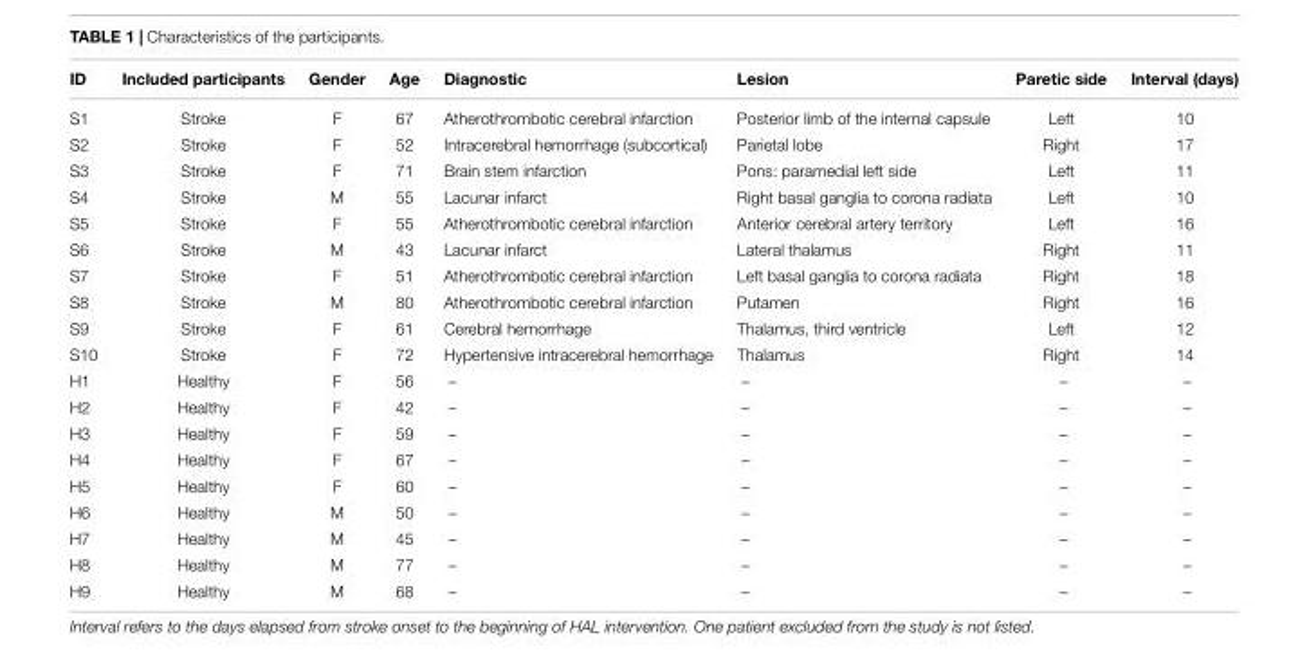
<table><thead><tr><td>ID</td><td>Included participants</td><td>Gender</td><td>Age</td><td>Diagnostic</td><td>Lesion</td><td>Paretic side</td><td>Interval (days)</td></tr></thead><tbody><tr><td>S1</td><td>Stroke</td><td>F</td><td>67</td><td>Atherothrombotic cerebral infarction</td><td>Posterior limb of the internal capsule</td><td>Left</td><td>10</td></tr><tr><td>S2</td><td>Stroke</td><td>F</td><td>52</td><td>Intracerebral hemorrhage (subcortical)</td><td>Parietal lobe</td><td>Right</td><td>17</td></tr><tr><td>S3</td><td>Stroke</td><td>F</td><td>71</td><td>Brain stem infarction</td><td>Pons: paramedial left side</td><td>Left</td><td>11</td></tr><tr><td>S4</td><td>Stroke</td><td>M</td><td>55</td><td>Lacunar infarct</td><td>Right basal ganglia to corona radiata</td><td>Left</td><td>10</td></tr><tr><td>S5</td><td>Stroke</td><td>F</td><td>55</td><td>Atherothrombotic cerebral infarction</td><td>Anterior cerebral artery territory</td><td>Left</td><td>16</td></tr><tr><td>S6</td><td>Stroke</td><td>M</td><td>43</td><td>Lacunar infarct</td><td>Lateral thalamus</td><td>Right</td><td>11</td></tr><tr><td>S7</td><td>Stroke</td><td>F</td><td>51</td><td>Atherothrombotic cerebral infarction</td><td>Left basal ganglia to corona radiata</td><td>Right</td><td>18</td></tr><tr><td>S8</td><td>Stroke</td><td>M</td><td>80</td><td>Atherothrombotic cerebral infarction</td><td>Putamen</td><td>Right</td><td>16</td></tr><tr><td>S9</td><td>Stroke</td><td>F</td><td>61</td><td>Cerebral hemorrhage</td><td>Thalamus, third ventricle</td><td>Left</td><td>12</td></tr><tr><td>S10</td><td>Stroke</td><td>F</td><td>72</td><td>Hypertensive intracerebral hemorrhage</td><td>Thalamus</td><td>Right</td><td>14</td></tr><tr><td>H1</td><td>Healthy</td><td>F</td><td>56</td><td>–</td><td>–</td><td>–</td><td>–</td></tr><tr><td>H2</td><td>Healthy</td><td>F</td><td>42</td><td>–</td><td>–</td><td>–</td><td>–</td></tr><tr><td>H3</td><td>Healthy</td><td>F</td><td>59</td><td>–</td><td>–</td><td>–</td><td>–</td></tr><tr><td>H4</td><td>Healthy</td><td>F</td><td>67</td><td>–</td><td>–</td><td>–</td><td>–</td></tr><tr><td>H5</td><td>Healthy</td><td>F</td><td>60</td><td>–</td><td>–</td><td>–</td><td>–</td></tr><tr><td>H6</td><td>Healthy</td><td>M</td><td>50</td><td>–</td><td>–</td><td>–</td><td>–</td></tr><tr><td>H7</td><td>Healthy</td><td>M</td><td>45</td><td>–</td><td>–</td><td>–</td><td>–</td></tr><tr><td>H8</td><td>Healthy</td><td>M</td><td>77</td><td>–</td><td>–</td><td>–</td><td>–</td></tr><tr><td>H9</td><td>Healthy</td><td>M</td><td>68</td><td>–</td><td>–</td><td>–</td><td>–</td></tr></tbody></table>